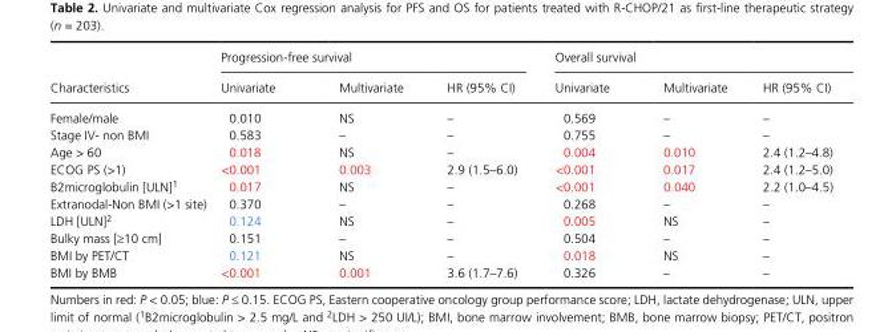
<table><thead><tr><td rowspan="2">Characteristics</td><td colspan="3">Progression- free survival</td><td colspan="3">Overall survival</td></tr><tr><td>Univariate</td><td>Multivariate</td><td>HR (95% CI)</td><td>Univariate</td><td>Multivariate</td><td>HR (95% CI)</td></tr></thead><tbody><tr><td>Female/male</td><td>0.010</td><td>NS</td><td>–</td><td>0.569</td><td>–</td><td>–</td></tr><tr><td>Stage IV- non BMI</td><td>0.583</td><td>–</td><td>–</td><td>0.755</td><td>–</td><td>–</td></tr><tr><td>Age &gt; 60</td><td>0.018</td><td>NS</td><td>–</td><td>0.004</td><td>0.010</td><td>2.4 (1.2–4.8)</td></tr><tr><td>ECOG PS (&gt;1)</td><td>&lt;0.001</td><td>0.003</td><td>2.9 (1.5–6.0)</td><td>&lt;0.001</td><td>0.017</td><td>2.4 (1.2–5.0)</td></tr><tr><td>B2microglobulin [ULN]1</td><td>0.017</td><td>NS</td><td>–</td><td>&lt;0.001</td><td>0.040</td><td>2.2 (1.0–4.5)</td></tr><tr><td>Extranodal- Non BMI (&gt;1 site)</td><td>0.370</td><td>–</td><td>–</td><td>0.268</td><td>–</td><td>–</td></tr><tr><td>LDH [ULN]2</td><td>0.124</td><td>NS</td><td>–</td><td>0.005</td><td>NS</td><td>–</td></tr><tr><td>Bulky mass [≥10 cm]</td><td>0.151</td><td>–</td><td>–</td><td>0.504</td><td>–</td><td>–</td></tr><tr><td>BMI by PET/CT</td><td>0.121</td><td>NS</td><td>–</td><td>0.018</td><td>NS</td><td>–</td></tr><tr><td>BMI by BMB</td><td>&lt;0.001</td><td>0.001</td><td>3.6 (1.7–7.6)</td><td>0.326</td><td>–</td><td>–</td></tr></tbody></table>